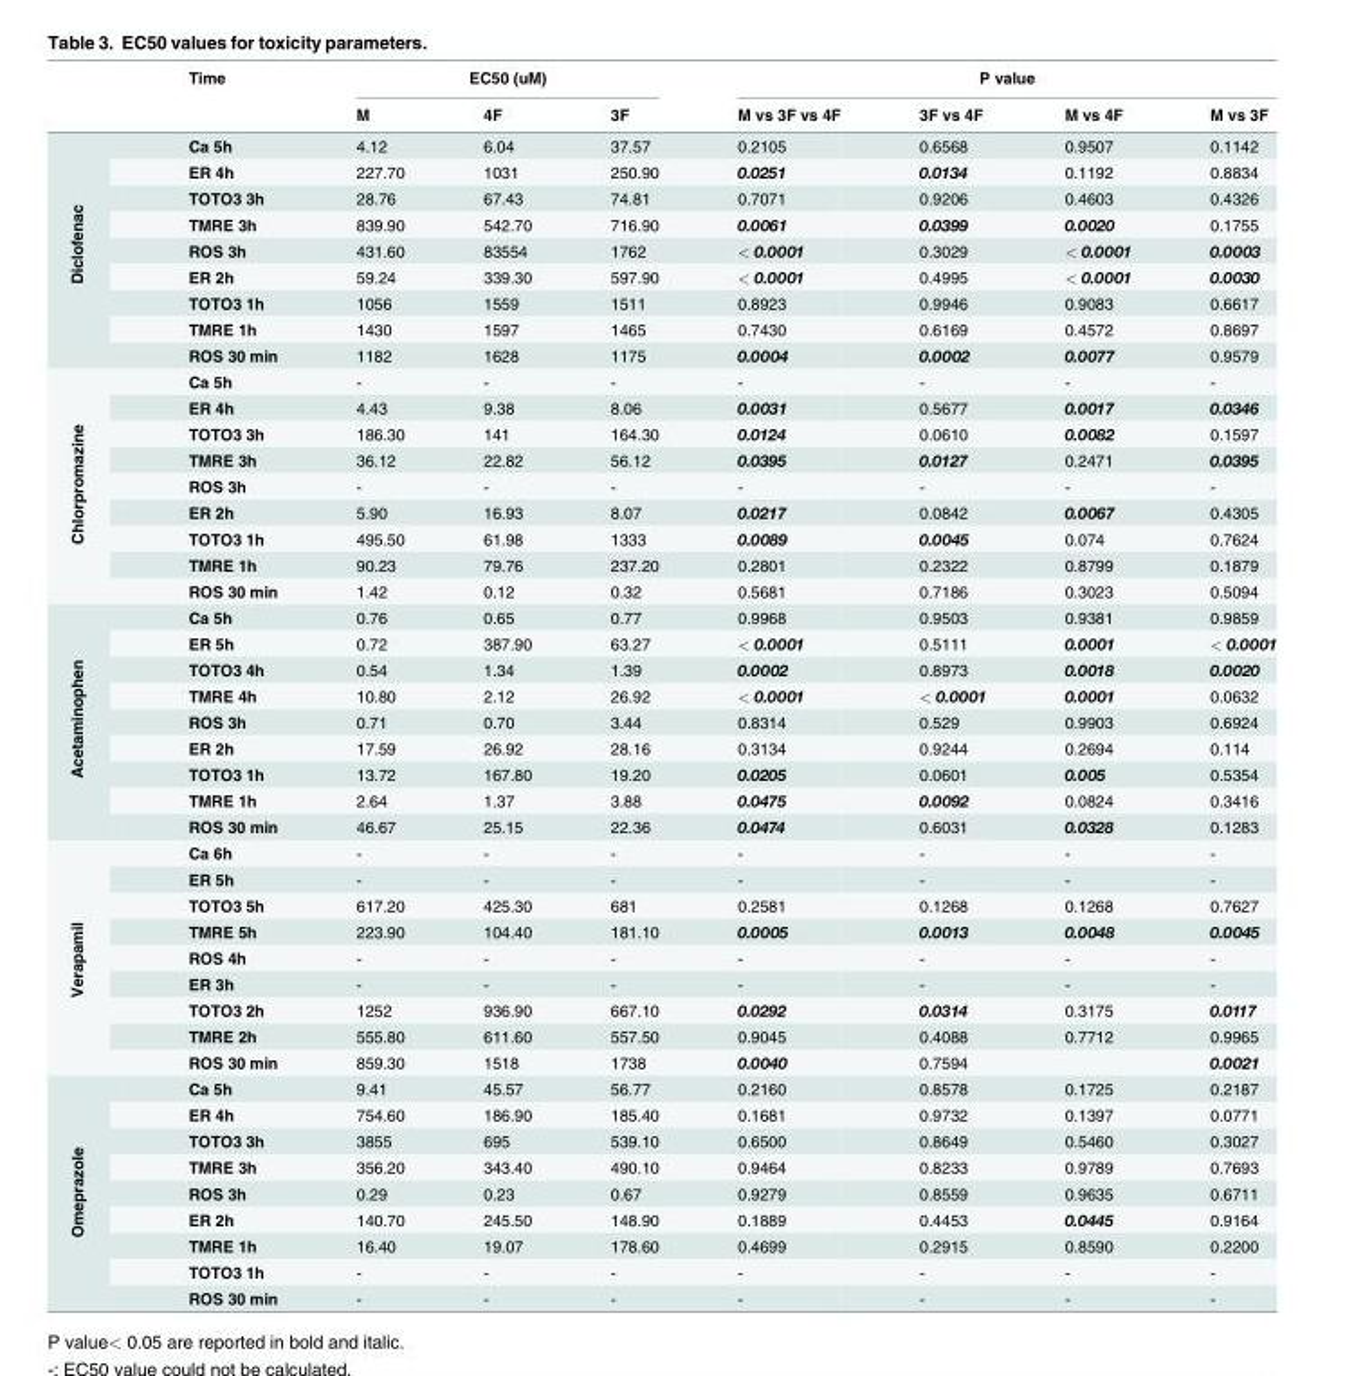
<table><thead><tr><td rowspan="2"></td><td rowspan="2">Time</td><td colspan="3">EC50 (uM)</td><td colspan="4">P value</td></tr><tr><td>M</td><td>4F</td><td>3F</td><td>M vs 3F vs 4F</td><td>3F vs 4F</td><td>M vs 4F</td><td>M vs 3F</td></tr></thead><tbody><tr><td rowspan="9">Diclofenac</td><td>Ca 5h</td><td>4.12</td><td>6.04</td><td>37.57</td><td>0.2105</td><td>0.6568</td><td>0.9507</td><td>0.1142</td></tr><tr><td>ER 4h</td><td>227.70</td><td>1031</td><td>250.90</td><td>0.0251</td><td>0.0134</td><td>0.1192</td><td>0.8834</td></tr><tr><td>TOTO3 3h</td><td>28.76</td><td>67.43</td><td>74.81</td><td>0.7071</td><td>0.9206</td><td>0.4603</td><td>0.4326</td></tr><tr><td>TMRE 3h</td><td>839.90</td><td>542.70</td><td>716.90</td><td>0.0061</td><td>0.0399</td><td>0.0020</td><td>0.1755</td></tr><tr><td>ROS 3h</td><td>431.60</td><td>83554</td><td>1762</td><td>&lt; 0.0001</td><td>0.3029</td><td>&lt; 0.0001</td><td>0.0003</td></tr><tr><td>ER 2h</td><td>59.24</td><td>339.30</td><td>597.90</td><td>&lt; 0.0001</td><td>0.4995</td><td>&lt; 0.0001</td><td>0.0030</td></tr><tr><td>TOTO3 1h</td><td>1056</td><td>1559</td><td>1511</td><td>0.8923</td><td>0.9946</td><td>0.9083</td><td>0.6617</td></tr><tr><td>TMRE 1h</td><td>1430</td><td>1597</td><td>1465</td><td>0.7430</td><td>0.6169</td><td>0.4572</td><td>0.8697</td></tr><tr><td>ROS 30 min</td><td>1182</td><td>1628</td><td>1175</td><td>0.0004</td><td>0.0002</td><td>0.0077</td><td>0.9579</td></tr><tr><td rowspan="9">Chlorpromazine</td><td>Ca 5h</td><td>-</td><td>-</td><td>-</td><td>-</td><td>-</td><td>-</td><td>-</td></tr><tr><td>ER 4h</td><td>4.43</td><td>9.38</td><td>8.06</td><td>0.0031</td><td>0.5677</td><td>0.0017</td><td>0.0346</td></tr><tr><td>TOTO3 3h</td><td>186.30</td><td>141</td><td>164.30</td><td>0.0124</td><td>0.0610</td><td>0.0082</td><td>0.1597</td></tr><tr><td>TMRE 3h</td><td>36.12</td><td>22.82</td><td>56.12</td><td>0.0395</td><td>0.0127</td><td>0.2471</td><td>0.0395</td></tr><tr><td>ROS 3h</td><td>-</td><td>-</td><td>-</td><td>-</td><td>-</td><td>-</td><td>-</td></tr><tr><td>ER 2h</td><td>5.90</td><td>16.93</td><td>8.07</td><td>0.0217</td><td>0.0842</td><td>0.0067</td><td>0.4305</td></tr><tr><td>TOTO3 1h</td><td>495.50</td><td>61.98</td><td>1333</td><td>0.0089</td><td>0.0045</td><td>0.074</td><td>0.7624</td></tr><tr><td>TMRE 1h</td><td>90.23</td><td>79.76</td><td>237.20</td><td>0.2801</td><td>0.2322</td><td>0.8799</td><td>0.1879</td></tr><tr><td>ROS 30 min</td><td>1.42</td><td>0.12</td><td>0.32</td><td>0.5681</td><td>0.7186</td><td>0.3023</td><td>0.5094</td></tr><tr><td rowspan="9">Acetaminophen</td><td>Ca 5h</td><td>0.76</td><td>0.65</td><td>0.77</td><td>0.9968</td><td>0.9503</td><td>0.9381</td><td>0.9859</td></tr><tr><td>ER 5h</td><td>0.72</td><td>387.90</td><td>63.27</td><td>&lt; 0.0001</td><td>0.5111</td><td>0.0001</td><td>&lt; 0.0001</td></tr><tr><td>TOTO3 4h</td><td>0.54</td><td>1.34</td><td>1.39</td><td>0.0002</td><td>0.8973</td><td>0.0018</td><td>0.0020</td></tr><tr><td>TMRE 4h</td><td>10.80</td><td>2.12</td><td>26.92</td><td>&lt; 0.0001</td><td>&lt; 0.0001</td><td>0.0001</td><td>0.0632</td></tr><tr><td>ROS 3h</td><td>0.71</td><td>0.70</td><td>3.44</td><td>0.8314</td><td>0.529</td><td>0.9903</td><td>0.6924</td></tr><tr><td>ER 2h</td><td>17.59</td><td>26.92</td><td>28.16</td><td>0.3134</td><td>0.9244</td><td>0.2694</td><td>0.114</td></tr><tr><td>TOTO3 1h</td><td>13.72</td><td>167.80</td><td>19.20</td><td>0.0205</td><td>0.0601</td><td>0.005</td><td>0.5354</td></tr><tr><td>TMRE 1h</td><td>2.64</td><td>1.37</td><td>3.88</td><td>0.0475</td><td>0.0092</td><td>0.0824</td><td>0.3416</td></tr><tr><td>ROS 30 min</td><td>46.67</td><td>25.15</td><td>22.36</td><td>0.0474</td><td>0.6031</td><td>0.0328</td><td>0.1283</td></tr><tr><td rowspan="9">Verapamil</td><td>Ca 6h</td><td>-</td><td>-</td><td>-</td><td>-</td><td>-</td><td>-</td><td>-</td></tr><tr><td>ER 5h</td><td>-</td><td>-</td><td>-</td><td>-</td><td>-</td><td>-</td><td>-</td></tr><tr><td>TOTO3 5h</td><td>617.20</td><td>425.30</td><td>681</td><td>0.2581</td><td>0.1268</td><td>0.1268</td><td>0.7627</td></tr><tr><td>TMRE 5h</td><td>223.90</td><td>104.40</td><td>181.10</td><td>0.0005</td><td>0.0013</td><td>0.0048</td><td>0.0045</td></tr><tr><td>ROS 4h</td><td>-</td><td>-</td><td>-</td><td>-</td><td>-</td><td>-</td><td>-</td></tr><tr><td>ER 3h</td><td>-</td><td>-</td><td>-</td><td>-</td><td>-</td><td>-</td><td>-</td></tr><tr><td>TOTO3 2h</td><td>1252</td><td>936.90</td><td>667.10</td><td>0.0292</td><td>0.0314</td><td>0.3175</td><td>0.0117</td></tr><tr><td>TMRE 2h</td><td>555.80</td><td>611.60</td><td>557.50</td><td>0.9045</td><td>0.4088</td><td>0.7712</td><td>0.9965</td></tr><tr><td>ROS 30 min</td><td>859.30</td><td>1518</td><td>1738</td><td>0.0040</td><td>0.7594</td><td></td><td>0.0021</td></tr><tr><td rowspan="9">Omeprazole</td><td>Ca 5h</td><td>9.41</td><td>45.57</td><td>56.77</td><td>0.2160</td><td>0.8578</td><td>0.1725</td><td>0.2187</td></tr><tr><td>ER 4h</td><td>754.60</td><td>186.90</td><td>185.40</td><td>0.1681</td><td>0.9732</td><td>0.1397</td><td>0.0771</td></tr><tr><td>TOTO3 3h</td><td>3855</td><td>695</td><td>539.10</td><td>0.6500</td><td>0.8649</td><td>0.5460</td><td>0.3027</td></tr><tr><td>TMRE 3h</td><td>356.20</td><td>343.40</td><td>490.10</td><td>0.9464</td><td>0.8233</td><td>0.9789</td><td>0.7693</td></tr><tr><td>ROS 3h</td><td>0.29</td><td>0.23</td><td>0.67</td><td>0.9279</td><td>0.8559</td><td>0.9635</td><td>0.6711</td></tr><tr><td>ER 2h</td><td>140.70</td><td>245.50</td><td>148.90</td><td>0.1889</td><td>0.4453</td><td>0.0445</td><td>0.9164</td></tr><tr><td>TMRE 1h</td><td>16.40</td><td>19.07</td><td>178.60</td><td>0.4699</td><td>0.2915</td><td>0.8590</td><td>0.2200</td></tr><tr><td>TOTO3 1h</td><td>-</td><td>-</td><td>-</td><td>-</td><td>-</td><td>-</td><td>-</td></tr><tr><td>ROS 30 min</td><td>-</td><td>-</td><td>-</td><td>-</td><td>-</td><td>-</td><td>-</td></tr></tbody></table>